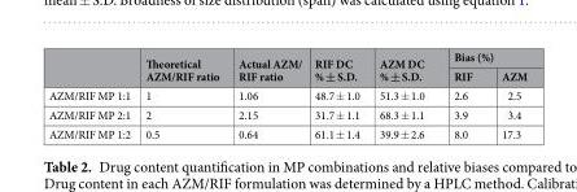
<table><thead><tr><td rowspan="2"></td><td rowspan="2">Theoretical AZM/RIF ratio</td><td rowspan="2">Actual AZM/ RIF ratio</td><td rowspan="2">RIF DC % ± S.D.</td><td rowspan="2">AZM DC % ± S.D.</td><td colspan="2">Bias (%)</td></tr><tr><td>RIF</td><td>AZM</td></tr></thead><tbody><tr><td>AZM/RIF MP 1:1</td><td>1</td><td>1.06</td><td>48.7 ± 1.0</td><td>51.3 ± 1.0</td><td>2.6</td><td>2.5</td></tr><tr><td>AZM/RIF MP 2:1</td><td>2</td><td>2.15</td><td>31.7 ± 1.1</td><td>68.3 ± 1.1</td><td>3.9</td><td>3.4</td></tr><tr><td>AZM/RIF MP 1:2</td><td>0.5</td><td>0.64</td><td>61.1 ± 1.4</td><td>39.9 ± 2.6</td><td>8.0</td><td>17.3</td></tr></tbody></table>